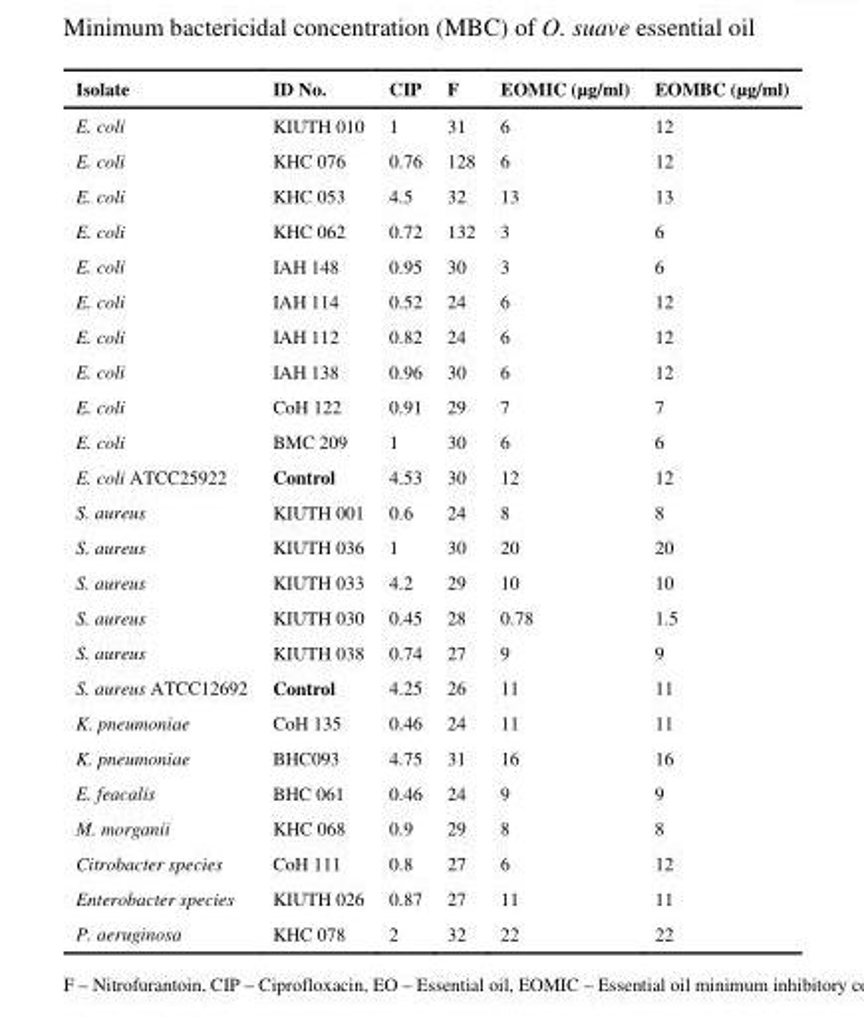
<table><thead><tr><td>Isolate</td><td>ID No.</td><td>CIP</td><td>F</td><td>EOMIC (μg/ml)</td><td>EOMBC (μg/ml)</td></tr></thead><tbody><tr><td>E. coli</td><td>KIUTH 010</td><td>1</td><td>31</td><td>6</td><td>12</td></tr><tr><td>E. coli</td><td>KHC 076</td><td>0.76</td><td>128</td><td>6</td><td>12</td></tr><tr><td>E. coli</td><td>KHC 053</td><td>4.5</td><td>32</td><td>13</td><td>13</td></tr><tr><td>E. coli</td><td>KHC 062</td><td>0.72</td><td>132</td><td>3</td><td>6</td></tr><tr><td>E. coli</td><td>IAH 148</td><td>0.95</td><td>30</td><td>3</td><td>6</td></tr><tr><td>E. coli</td><td>IAH 114</td><td>0.52</td><td>24</td><td>6</td><td>12</td></tr><tr><td>E. coli</td><td>IAH 112</td><td>0.82</td><td>24</td><td>6</td><td>12</td></tr><tr><td>E. coli</td><td>IAH 138</td><td>0.96</td><td>30</td><td>6</td><td>12</td></tr><tr><td>E. coli</td><td>CoH 122</td><td>0.91</td><td>29</td><td>7</td><td>7</td></tr><tr><td>E. coli</td><td>BMC 209</td><td>1</td><td>30</td><td>6</td><td>6</td></tr><tr><td>E. coli ATCC25922</td><td>Control</td><td>4.53</td><td>30</td><td>12</td><td>12</td></tr><tr><td>S. aureus</td><td>KIUTH 001</td><td>0.6</td><td>24</td><td>8</td><td>8</td></tr><tr><td>S. aureus</td><td>KIUTH 036</td><td>1</td><td>30</td><td>20</td><td>20</td></tr><tr><td>S. aureus</td><td>KIUTH 033</td><td>4.2</td><td>29</td><td>10</td><td>10</td></tr><tr><td>S. aureus</td><td>KIUTH 030</td><td>0.45</td><td>28</td><td>0.78</td><td>1.5</td></tr><tr><td>S. aureus</td><td>KIUTH 038</td><td>0.74</td><td>27</td><td>9</td><td>9</td></tr><tr><td>S. aureus ATCC12692</td><td>Control</td><td>4.25</td><td>26</td><td>11</td><td>11</td></tr><tr><td>K. pneumoniae</td><td>CoH 135</td><td>0.46</td><td>24</td><td>11</td><td>11</td></tr><tr><td>K. pneumoniae</td><td>BHC093</td><td>4.75</td><td>31</td><td>16</td><td>16</td></tr><tr><td>E. feacalis</td><td>BHC 061</td><td>0.46</td><td>24</td><td>9</td><td>9</td></tr><tr><td>M. morganii</td><td>KHC 068</td><td>0.9</td><td>29</td><td>8</td><td>8</td></tr><tr><td>Citrobacter species</td><td>CoH 111</td><td>0.8</td><td>27</td><td>6</td><td>12</td></tr><tr><td>Enterobacter species</td><td>KIUTH 026</td><td>0.87</td><td>27</td><td>11</td><td>11</td></tr><tr><td>P. aeruginosa</td><td>KHC 078</td><td>2</td><td>32</td><td>22</td><td>22</td></tr></tbody></table>